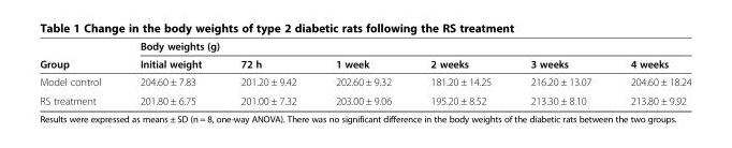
<table><thead><tr><td rowspan="2">Group</td><td colspan="6">Body weights (g)</td></tr><tr><td>Initial weight</td><td>72 h</td><td>1 week</td><td>2 weeks</td><td>3 weeks</td><td>4 weeks</td></tr></thead><tbody><tr><td>Model control</td><td>204.60 ± 7.83</td><td>201.20 ± 9.42</td><td>202.60 ± 9.32</td><td>181.20 ± 14.25</td><td>216.20 ± 13.07</td><td>204.60 ± 18.24</td></tr><tr><td>RS treatment</td><td>201.80 ± 6.75</td><td>201.00 ± 7.32</td><td>203.00 ± 9.06</td><td>195.20 ± 8.52</td><td>213.30 ± 8.10</td><td>213.80 ± 9.92</td></tr></tbody></table>